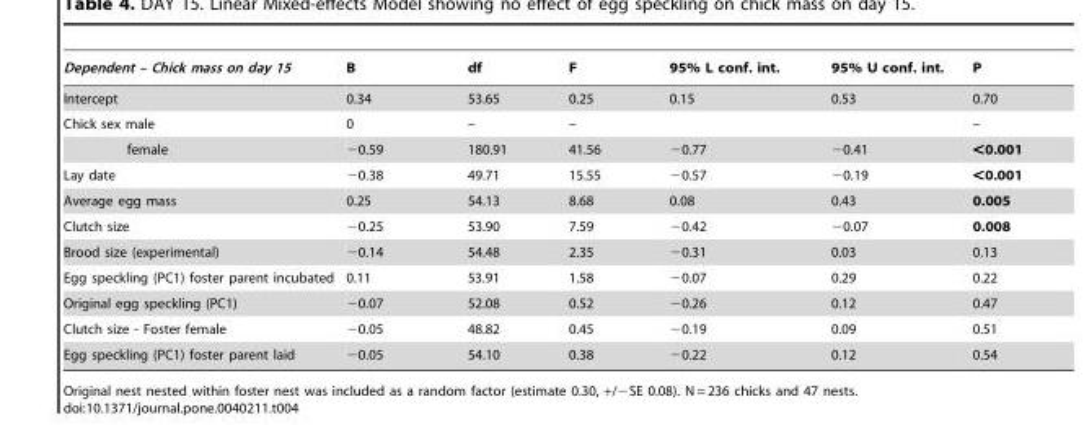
<table><thead><tr><td>Dependent – Chick mass on day 15</td><td>B</td><td>df</td><td>F</td><td>95% L conf. int.</td><td>95% U conf. int.</td><td>P</td></tr></thead><tbody><tr><td>Intercept</td><td>0.34</td><td>53.65</td><td>0.25</td><td>0.15</td><td>0.53</td><td>0.70</td></tr><tr><td>Chick sex male</td><td>0</td><td>–</td><td>–</td><td></td><td></td><td>–</td></tr><tr><td>female</td><td>−0.59</td><td>180.91</td><td>41.56</td><td>−0.77</td><td>−0.41</td><td>&lt;0.001</td></tr><tr><td>Lay date</td><td>−0.38</td><td>49.71</td><td>15.55</td><td>−0.57</td><td>−0.19</td><td>&lt;0.001</td></tr><tr><td>Average egg mass</td><td>0.25</td><td>54.13</td><td>8.68</td><td>0.08</td><td>0.43</td><td>0.005</td></tr><tr><td>Clutch size</td><td>−0.25</td><td>53.90</td><td>7.59</td><td>−0.42</td><td>−0.07</td><td>0.008</td></tr><tr><td>Brood size (experimental)</td><td>−0.14</td><td>54.48</td><td>2.35</td><td>−0.31</td><td>0.03</td><td>0.13</td></tr><tr><td>Egg speckling (PC1) foster parent incubated</td><td>0.11</td><td>53.91</td><td>1.58</td><td>−0.07</td><td>0.29</td><td>0.22</td></tr><tr><td>Original egg speckling (PC1)</td><td>−0.07</td><td>52.08</td><td>0.52</td><td>−0.26</td><td>0.12</td><td>0.47</td></tr><tr><td>Clutch size - Foster female</td><td>−0.05</td><td>48.82</td><td>0.45</td><td>−0.19</td><td>0.09</td><td>0.51</td></tr><tr><td>Egg speckling (PC1) foster parent laid</td><td>−0.05</td><td>54.10</td><td>0.38</td><td>−0.22</td><td>0.12</td><td>0.54</td></tr></tbody></table>